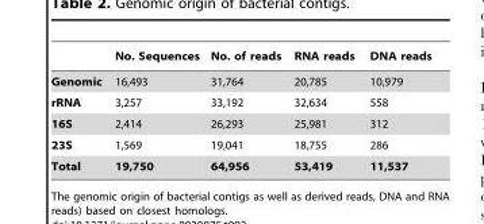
<table><thead><tr><td></td><td>No. Sequences</td><td>No. of reads</td><td>RNA reads</td><td>DNA reads</td></tr></thead><tbody><tr><td>Genomic</td><td>16,493</td><td>31,764</td><td>20,785</td><td>10,979</td></tr><tr><td>rRNA</td><td>3,257</td><td>33,192</td><td>32,634</td><td>558</td></tr><tr><td>16S</td><td>2,414</td><td>26,293</td><td>25,981</td><td>312</td></tr><tr><td>23S</td><td>1,569</td><td>19,041</td><td>18,755</td><td>286</td></tr><tr><td>Total</td><td>19,750</td><td>64,956</td><td>53,419</td><td>11,537</td></tr></tbody></table>